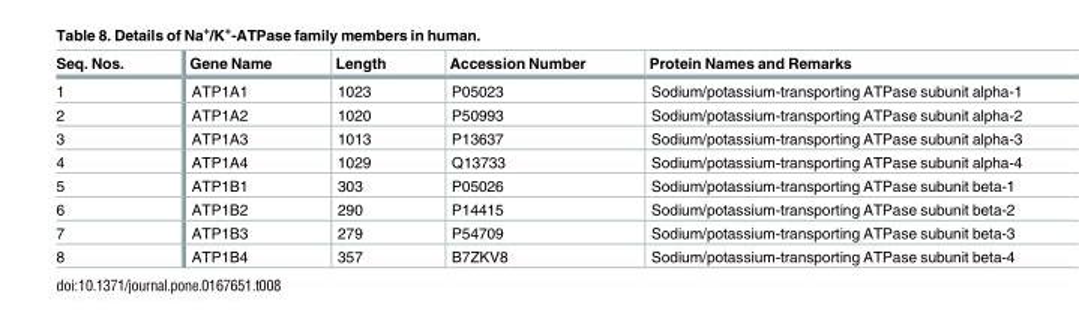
<table><thead><tr><td>Seq. Nos.</td><td>Gene Name</td><td>Length</td><td>Accession Number</td><td>Protein Names and Remarks</td></tr></thead><tbody><tr><td>1</td><td>ATP1A1</td><td>1023</td><td>P05023</td><td>Sodium/potassium-transporting ATPase subunit alpha-1</td></tr><tr><td>2</td><td>ATP1A2</td><td>1020</td><td>P50993</td><td>Sodium/potassium-transporting ATPase subunit alpha-2</td></tr><tr><td>3</td><td>ATP1A3</td><td>1013</td><td>P13637</td><td>Sodium/potassium-transporting ATPase subunit alpha-3</td></tr><tr><td>4</td><td>ATP1A4</td><td>1029</td><td>Q13733</td><td>Sodium/potassium-transporting ATPase subunit alpha-4</td></tr><tr><td>5</td><td>ATP1B1</td><td>303</td><td>P05026</td><td>Sodium/potassium-transporting ATPase subunit beta-1</td></tr><tr><td>6</td><td>ATP1B2</td><td>290</td><td>P14415</td><td>Sodium/potassium-transporting ATPase subunit beta-2</td></tr><tr><td>7</td><td>ATP1B3</td><td>279</td><td>P54709</td><td>Sodium/potassium-transporting ATPase subunit beta-3</td></tr><tr><td>8</td><td>ATP1B4</td><td>357</td><td>B7ZKV8</td><td>Sodium/potassium-transporting ATPase subunit beta-4</td></tr></tbody></table>